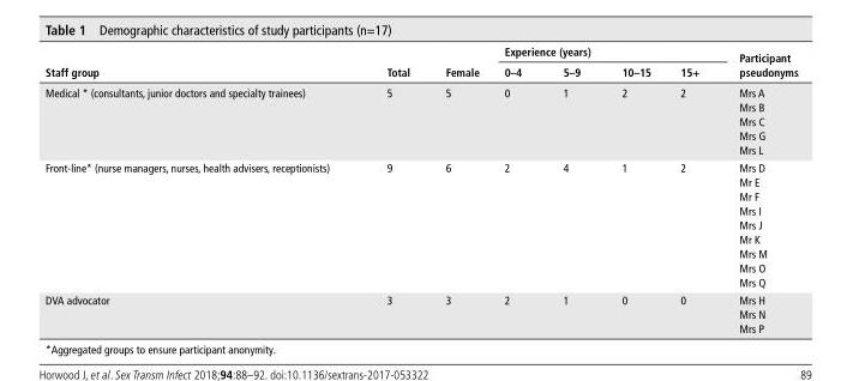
<table><thead><tr><td rowspan="2">staff group</td><td rowspan="2">Total</td><td rowspan="2">Female</td><td colspan="4">experience (years)</td><td rowspan="2">Participant pseudonyms</td></tr><tr><td>0–4</td><td>5–9</td><td>10–15</td><td>15+</td></tr></thead><tbody><tr><td>Medical * (consultants, junior doctors and specialty trainees)</td><td>5</td><td>5</td><td>0</td><td>1</td><td>2</td><td>2</td><td>Mrs A Mrs B Mrs C Mrs G Mrs L</td></tr><tr><td>Front-line* (nurse managers, nurses, health advisers, receptionists)</td><td>9</td><td>6</td><td>2</td><td>4</td><td>1</td><td>2</td><td>Mrs D Mr E Mr F Mrs I Mrs J Mr K Mrs M Mrs O Mrs Q</td></tr><tr><td>DVA advocator</td><td>3</td><td>3</td><td>2</td><td>1</td><td>0</td><td>0</td><td>Mrs H Mrs N Mrs P</td></tr></tbody></table>